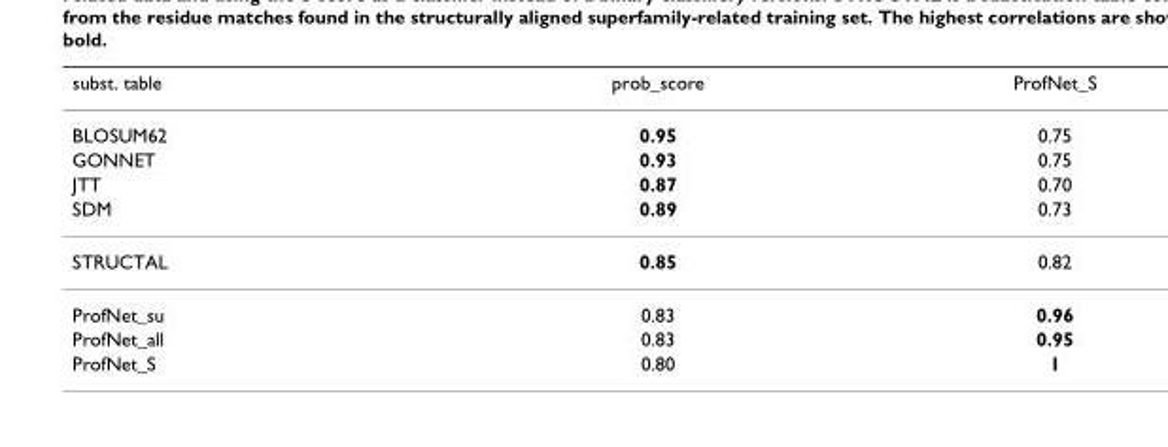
<table><thead><tr><td>subst. table</td><td>prob_score</td><td>ProfNet_S</td></tr></thead><tbody><tr><td>BLOSUM62</td><td>0.95</td><td>0.75</td></tr><tr><td>GONNET</td><td>0.93</td><td>0.75</td></tr><tr><td>JTT</td><td>0.87</td><td>0.70</td></tr><tr><td>SDM</td><td>0.89</td><td>0.73</td></tr><tr><td>STRUCTAL</td><td>0.85</td><td>0.82</td></tr><tr><td>ProfNet_su</td><td>0.83</td><td>0.96</td></tr><tr><td>ProfNet_all</td><td>0.83</td><td>0.95</td></tr><tr><td>ProfNet_S</td><td>0.80</td><td>1</td></tr></tbody></table>